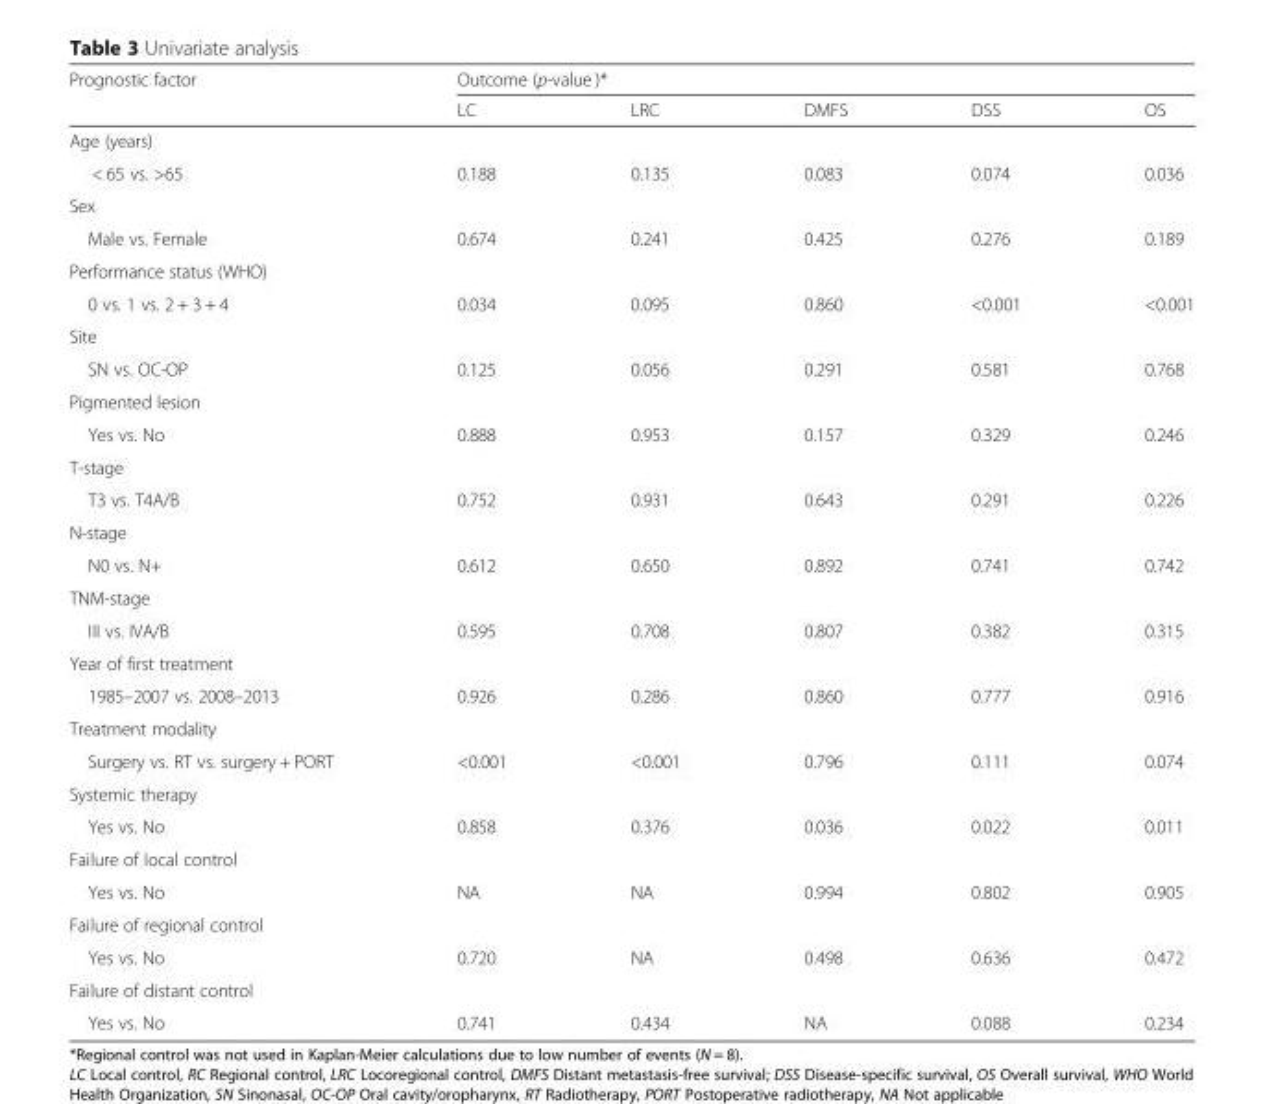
<table><thead><tr><td rowspan="2">Prognostic factor</td><td colspan="5">Outcome (p-value )*</td></tr><tr><td>LC</td><td>LRC</td><td>DMFS</td><td>DSS</td><td>OS</td></tr></thead><tbody><tr><td colspan="6">Age (years)</td></tr><tr><td>&lt; 65 vs. &gt;65</td><td>0.188</td><td>0.135</td><td>0.083</td><td>0.074</td><td>0.036</td></tr><tr><td colspan="6">Sex</td></tr><tr><td>Male vs. Female</td><td>0.674</td><td>0.241</td><td>0.425</td><td>0.276</td><td>0.189</td></tr><tr><td colspan="6">Performance status (WHO)</td></tr><tr><td>0 vs. 1 vs. 2 + 3 + 4</td><td>0.034</td><td>0.095</td><td>0.860</td><td>&lt;0.001</td><td>&lt;0.001</td></tr><tr><td colspan="6">Site</td></tr><tr><td>SN vs. OC-OP</td><td>0.125</td><td>0.056</td><td>0.291</td><td>0.581</td><td>0.768</td></tr><tr><td colspan="6">Pigmented lesion</td></tr><tr><td>Yes vs. No</td><td>0.888</td><td>0.953</td><td>0.157</td><td>0.329</td><td>0.246</td></tr><tr><td colspan="6">T-stage</td></tr><tr><td>T3 vs. T4A/B</td><td>0.752</td><td>0.931</td><td>0.643</td><td>0.291</td><td>0.226</td></tr><tr><td colspan="6">N-stage</td></tr><tr><td>N0 vs. N+</td><td>0.612</td><td>0.650</td><td>0.892</td><td>0.741</td><td>0.742</td></tr><tr><td colspan="6">TNM-stage</td></tr><tr><td>III vs. IVA/B</td><td>0.595</td><td>0.708</td><td>0.807</td><td>0.382</td><td>0.315</td></tr><tr><td colspan="6">Year of first treatment</td></tr><tr><td>1985–2007 vs. 2008–2013</td><td>0.926</td><td>0.286</td><td>0.860</td><td>0.777</td><td>0.916</td></tr><tr><td colspan="6">Treatment modality</td></tr><tr><td>Surgery vs. RT vs. surgery + PORT</td><td>&lt;0.001</td><td>&lt;0.001</td><td>0.796</td><td>0.111</td><td>0.074</td></tr><tr><td colspan="6">Systemic therapy</td></tr><tr><td>Yes vs. No</td><td>0.858</td><td>0.376</td><td>0.036</td><td>0.022</td><td>0.011</td></tr><tr><td colspan="6">Failure of local control</td></tr><tr><td>Yes vs. No</td><td>NA</td><td>NA</td><td>0.994</td><td>0.802</td><td>0.905</td></tr><tr><td colspan="6">Failure of regional control</td></tr><tr><td>Yes vs. No</td><td>0.720</td><td>NA</td><td>0.498</td><td>0.636</td><td>0.472</td></tr><tr><td colspan="6">Failure of distant control</td></tr><tr><td>Yes vs. No</td><td>0.741</td><td>0.434</td><td>NA</td><td>0.088</td><td>0.234</td></tr></tbody></table>